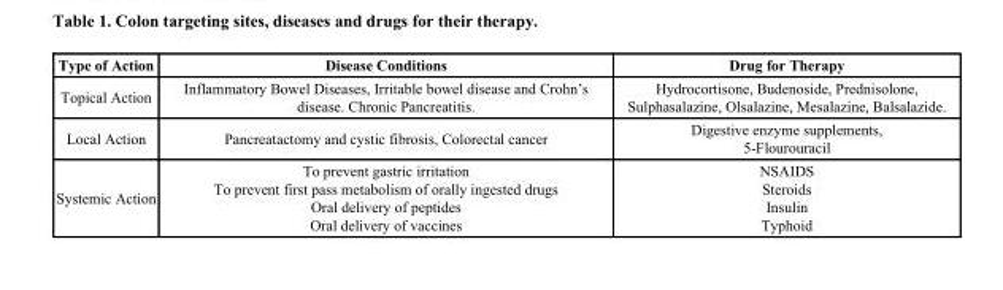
<table><thead><tr><td>Type of Action</td><td>Disease Conditions</td><td>Drug for Therapy</td></tr></thead><tbody><tr><td>Topical Action</td><td>Inflammatory Bowel Diseases, Irritable bowel disease and Crohn’s disease. Chronic Pancreatitis.</td><td>Hydrocortisone, Budenoside, Prednisolone, Sulphasalazine, Olsalazine, Mesalazine, Balsalazide.</td></tr><tr><td>Local Action</td><td>Pancreatactomy and cystic fibrosis, Colorectal cancer</td><td>Digestive enzyme supplements, 5-Flourouracil</td></tr><tr><td>Systemic Action</td><td>To prevent gastric irritation To prevent first pass metabolism of orally ingested drugs Oral delivery of peptides Oral delivery of vaccines</td><td>NSAIDS Steroids Insulin Typhoid</td></tr></tbody></table>